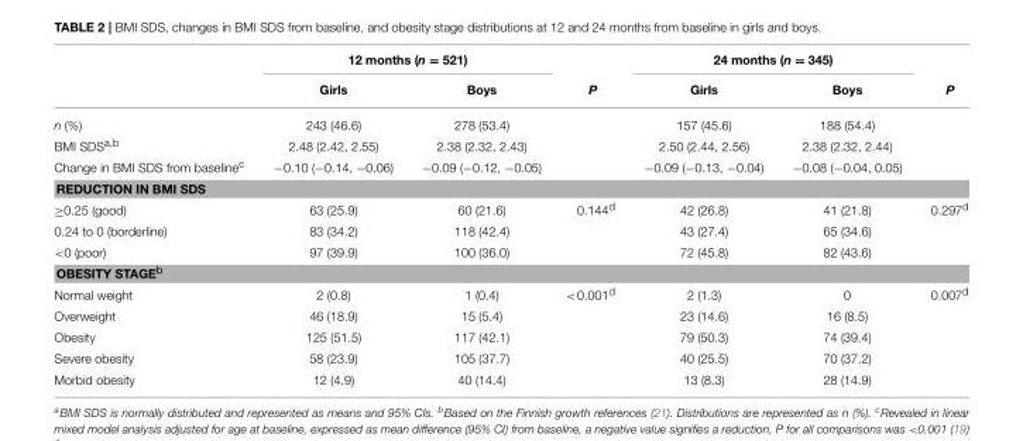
<table><thead><tr><td rowspan="2"></td><td colspan="2">12 months (n = 521)</td><td rowspan="2">P</td><td colspan="2">24 months (n = 345)</td><td rowspan="2">P</td></tr><tr><td>Girls</td><td>Boys</td><td>Girls</td><td>Boys</td></tr></thead><tbody><tr><td>n (%)</td><td>243 (46.6)</td><td>278 (53.4)</td><td></td><td>157 (45.6)</td><td>188 (54.4)</td><td></td></tr><tr><td>BMI SDS<sup>a,b</sup></td><td>2.48 (2.42, 2.55)</td><td>2.38 (2.32, 2.43)</td><td></td><td>2.50 (2.44, 2.56)</td><td>2.38 (2.32, 2.44)</td><td></td></tr><tr><td>Change in BMI SDS from baseline<sup>c</sup></td><td>−0.10 (−0.14, −0.06)</td><td>−0.09 (−0.12, −0.05)</td><td></td><td>−0.09 (−0.13, −0.04)</td><td>−0.08 (−0.04, 0.05)</td><td></td></tr><tr><td colspan="7">REDUCTION IN BMI SDS</td></tr><tr><td>≥0.25 (good)</td><td>63 (25.9)</td><td>60 (21.6)</td><td>0.144<sup>d</sup></td><td>42 (26.8)</td><td>41 (21.8)</td><td>0.297<sup>d</sup></td></tr><tr><td>0.24 to 0 (borderline)</td><td>83 (34.2)</td><td>118 (42.4)</td><td></td><td>43 (27.4)</td><td>65 (34.6)</td><td></td></tr><tr><td>&lt;0 (poor)</td><td>97 (39.9)</td><td>100 (36.0)</td><td></td><td>72 (45.8)</td><td>82 (43.6)</td><td></td></tr><tr><td colspan="7">OBESITY STAGE<sup>b</sup></td></tr><tr><td>Normal weight</td><td>2 (0.8)</td><td>1 (0.4)</td><td>&lt;0.001<sup>d</sup></td><td>2 (1.3)</td><td>0</td><td>0.007<sup>d</sup></td></tr><tr><td>Overweight</td><td>46 (18.9)</td><td>15 (5.4)</td><td></td><td>23 (14.6)</td><td>16 (8.5)</td><td></td></tr><tr><td>Obesity</td><td>125 (51.5)</td><td>117 (42.1)</td><td></td><td>79 (50.3)</td><td>74 (39.4)</td><td></td></tr><tr><td>Severe obesity</td><td>58 (23.9)</td><td>105 (37.7)</td><td></td><td>40 (25.5)</td><td>70 (37.2)</td><td></td></tr><tr><td>Morbid obesity</td><td>12 (4.9)</td><td>40 (14.4)</td><td></td><td>13 (8.3)</td><td>28 (14.9)</td><td></td></tr></tbody></table>